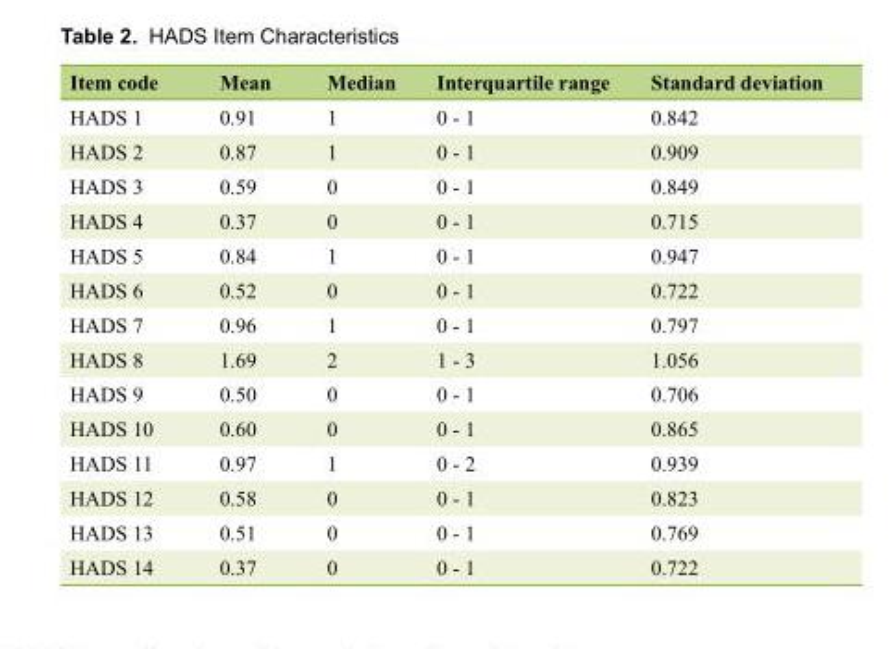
<table><thead><tr><td>Item code</td><td>Mean</td><td>Median</td><td>Interquartile range</td><td>Standard deviation</td></tr></thead><tbody><tr><td>HADS 1</td><td>0.91</td><td>1</td><td>0 - 1</td><td>0.842</td></tr><tr><td>HADS 2</td><td>0.87</td><td>1</td><td>0 - 1</td><td>0.909</td></tr><tr><td>HADS 3</td><td>0.59</td><td>0</td><td>0 - 1</td><td>0.849</td></tr><tr><td>HADS 4</td><td>0.37</td><td>0</td><td>0 - 1</td><td>0.715</td></tr><tr><td>HADS 5</td><td>0.84</td><td>1</td><td>0 - 1</td><td>0.947</td></tr><tr><td>HADS 6</td><td>0.52</td><td>0</td><td>0 - 1</td><td>0.722</td></tr><tr><td>HADS 7</td><td>0.96</td><td>1</td><td>0 - 1</td><td>0.797</td></tr><tr><td>HADS 8</td><td>1.69</td><td>2</td><td>1 - 3</td><td>1.056</td></tr><tr><td>HADS 9</td><td>0.50</td><td>0</td><td>0 - 1</td><td>0.706</td></tr><tr><td>HADS 10</td><td>0.60</td><td>0</td><td>0 - 1</td><td>0.865</td></tr><tr><td>HADS 11</td><td>0.97</td><td>1</td><td>0 - 2</td><td>0.939</td></tr><tr><td>HADS 12</td><td>0.58</td><td>0</td><td>0 - 1</td><td>0.823</td></tr><tr><td>HADS 13</td><td>0.51</td><td>0</td><td>0 - 1</td><td>0.769</td></tr><tr><td>HADS 14</td><td>0.37</td><td>0</td><td>0 - 1</td><td>0.722</td></tr></tbody></table>